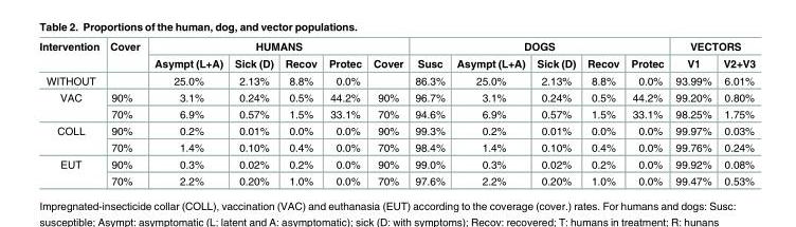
<table><thead><tr><td rowspan="2">Intervention</td><td rowspan="2">Cover</td><td colspan="5">HUMANS</td><td colspan="5">DOGS</td><td colspan="2">VECTORS</td></tr><tr><td>Asympt (L+A)</td><td>Sick (D)</td><td>Recov</td><td>Protec</td><td>Cover</td><td>Susc</td><td>Asympt (L+A)</td><td>Sick (D)</td><td>Recov</td><td>Protec</td><td>V1</td><td>V2+V3</td></tr></thead><tbody><tr><td>WITHOUT</td><td></td><td>25.0%</td><td>2.13%</td><td>8.8%</td><td>0.0%</td><td></td><td>86.3%</td><td>25.0%</td><td>2.13%</td><td>8.8%</td><td>0.0%</td><td>93.99%</td><td>6.01%</td></tr><tr><td rowspan="2">VAC</td><td>90%</td><td>3.1%</td><td>0.24%</td><td>0.5%</td><td>44.2%</td><td>90%</td><td>96.7%</td><td>3.1%</td><td>0.24%</td><td>0.5%</td><td>44.2%</td><td>99.20%</td><td>0.80%</td></tr><tr><td>70%</td><td>6.9%</td><td>0.57%</td><td>1.5%</td><td>33.1%</td><td>70%</td><td>94.6%</td><td>6.9%</td><td>0.57%</td><td>1.5%</td><td>33.1%</td><td>98.25%</td><td>1.75%</td></tr><tr><td rowspan="2">COLL</td><td>90%</td><td>0.2%</td><td>0.01%</td><td>0.0%</td><td>0.0%</td><td>90%</td><td>99.3%</td><td>0.2%</td><td>0.01%</td><td>0.0%</td><td>0.0%</td><td>99.97%</td><td>0.03%</td></tr><tr><td>70%</td><td>1.4%</td><td>0.10%</td><td>0.4%</td><td>0.0%</td><td>70%</td><td>98.4%</td><td>1.4%</td><td>0.10%</td><td>0.4%</td><td>0.0%</td><td>99.76%</td><td>0.24%</td></tr><tr><td rowspan="2">EUT</td><td>90%</td><td>0.3%</td><td>0.02%</td><td>0.2%</td><td>0.0%</td><td>90%</td><td>99.0%</td><td>0.3%</td><td>0.02%</td><td>0.2%</td><td>0.0%</td><td>99.92%</td><td>0.08%</td></tr><tr><td>70%</td><td>2.2%</td><td>0.20%</td><td>1.0%</td><td>0.0%</td><td>70%</td><td>97.6%</td><td>2.2%</td><td>0.20%</td><td>1.0%</td><td>0.0%</td><td>99.47%</td><td>0.53%</td></tr></tbody></table>